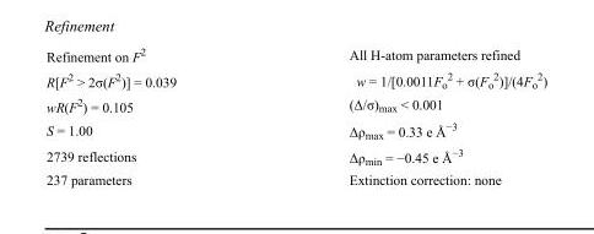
<table><tbody><tr><td>Refinement on F<sup>2</sup></td><td>All H-atom parameters refined</td></tr><tr><td>R[F<sup>2</sup> &gt; 2σ(F<sup>2</sup>)] = 0.039</td><td>w = 1/[0.0011F<sub>o</sub> <sup>2</sup> + σ(F<sub>o</sub> <sup>2</sup>)]/(4F<sub>o</sub> <sup>2</sup>)</td></tr><tr><td>wR(F<sup>2</sup>) = 0.105</td><td>(Δ/σ)<sub>max</sub> &lt; 0.001</td></tr><tr><td>S = 1.00</td><td>Δρ<sub>max</sub> = 0.33 e Å<sup>−3</sup></td></tr><tr><td>2739 reflections</td><td>Δρ<sub>min</sub> = −0.45 e Å<sup>−3</sup></td></tr><tr><td>237 parameters</td><td>Extinction correction: none</td></tr></tbody></table>